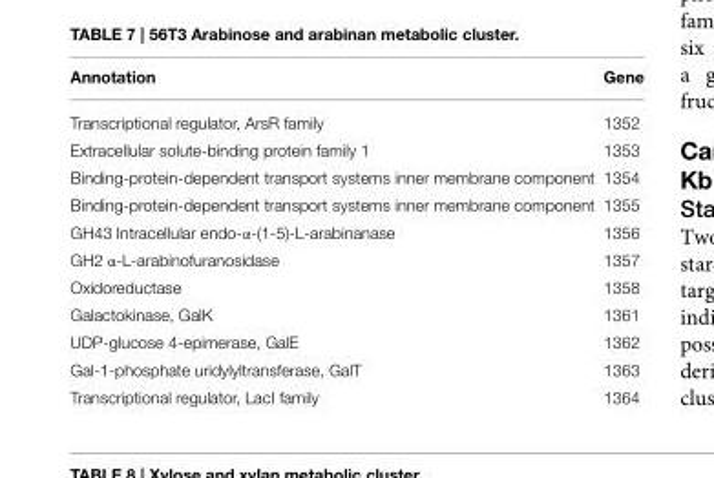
<table><thead><tr><td>Annotation</td><td>Gene</td></tr></thead><tbody><tr><td>Transcriptional regulator, ArsR family</td><td>1352</td></tr><tr><td>Extracellular solute-binding protein family 1</td><td>1353</td></tr><tr><td>Binding-protein-dependent transport systems inner membrane component</td><td>1354</td></tr><tr><td>Binding-protein-dependent transport systems inner membrane component</td><td>1355</td></tr><tr><td>GH43 Intracellular endo-α-(1-5)-L-arabinanase</td><td>1356</td></tr><tr><td>GH2 α-L-arabinofuranosidase</td><td>1357</td></tr><tr><td>Oxidoreductase</td><td>1358</td></tr><tr><td>Galactokinase, GalK</td><td>1361</td></tr><tr><td>UDP-glucose 4-epimerase, GalE</td><td>1362</td></tr><tr><td>Gal-1-phosphate uridylyltransferase, GalT</td><td>1363</td></tr><tr><td>Transcriptional regulator, LacI family</td><td>1364</td></tr></tbody></table>